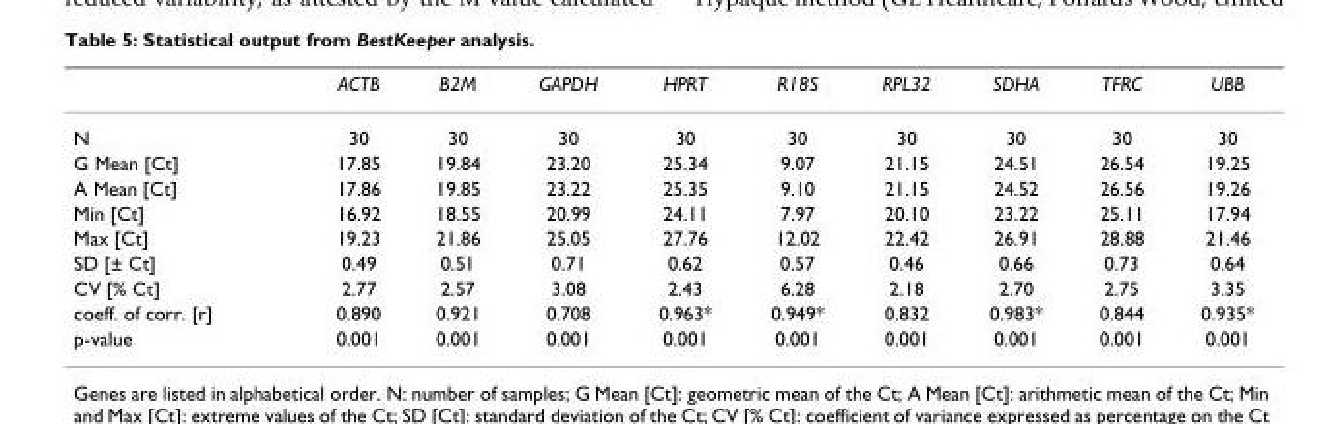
<table><thead><tr><td></td><td>ACTB</td><td>B2M</td><td>GAPDH</td><td>HPRT</td><td>R18S</td><td>RPL32</td><td>SDHA</td><td>TFRC</td><td>UBB</td></tr></thead><tbody><tr><td>N</td><td>30</td><td>30</td><td>30</td><td>30</td><td>30</td><td>30</td><td>30</td><td>30</td><td>30</td></tr><tr><td>G Mean [Ct]</td><td>17.85</td><td>19.84</td><td>23.20</td><td>25.34</td><td>9.07</td><td>21.15</td><td>24.51</td><td>26.54</td><td>19.25</td></tr><tr><td>A Mean [Ct]</td><td>17.86</td><td>19.85</td><td>23.22</td><td>25.35</td><td>9.10</td><td>21.15</td><td>24.52</td><td>26.56</td><td>19.26</td></tr><tr><td>Min [Ct]</td><td>16.92</td><td>18.55</td><td>20.99</td><td>24.11</td><td>7.97</td><td>20.10</td><td>23.22</td><td>25.11</td><td>17.94</td></tr><tr><td>Max [Ct]</td><td>19.23</td><td>21.86</td><td>25.05</td><td>27.76</td><td>12.02</td><td>22.42</td><td>26.91</td><td>28.88</td><td>21.46</td></tr><tr><td>SD [± Ct]</td><td>0.49</td><td>0.51</td><td>0.71</td><td>0.62</td><td>0.57</td><td>0.46</td><td>0.66</td><td>0.73</td><td>0.64</td></tr><tr><td>CV [% Ct]</td><td>2.77</td><td>2.57</td><td>3.08</td><td>2.43</td><td>6.28</td><td>2.18</td><td>2.70</td><td>2.75</td><td>3.35</td></tr><tr><td>coeff. of corr. [r]</td><td>0.890</td><td>0.921</td><td>0.708</td><td>0.963*</td><td>0.949*</td><td>0.832</td><td>0.983*</td><td>0.844</td><td>0.935*</td></tr><tr><td>p-value</td><td>0.001</td><td>0.001</td><td>0.001</td><td>0.001</td><td>0.001</td><td>0.001</td><td>0.001</td><td>0.001</td><td>0.001</td></tr></tbody></table>